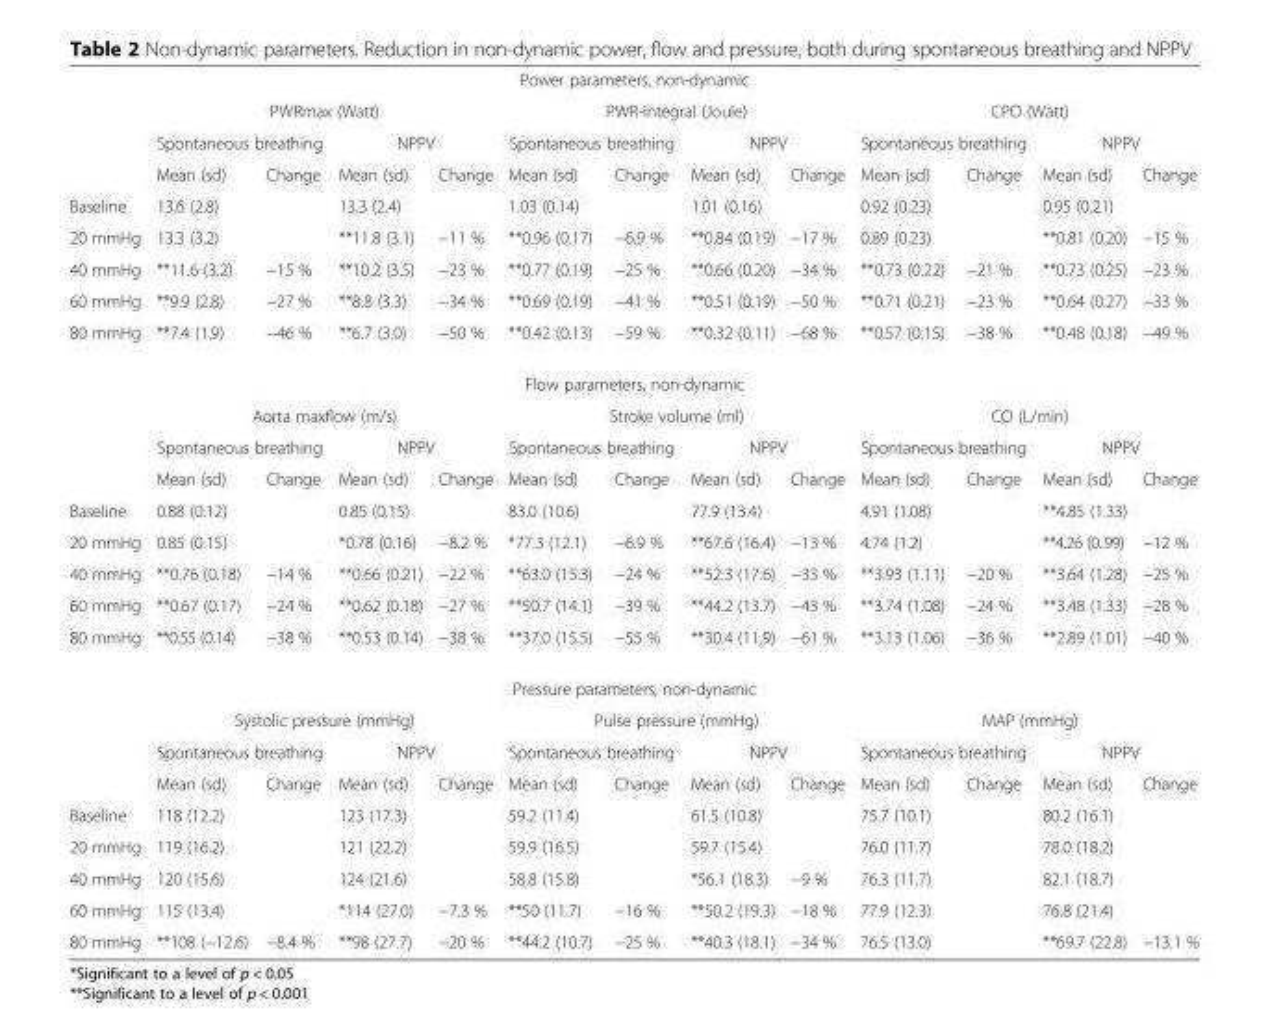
<table><tbody><tr><td colspan="13">Power parameters, non-dynamic</td></tr><tr><td></td><td colspan="4">PWRmax (Watt)</td><td colspan="4">PWR-integral (Joule)</td><td colspan="4">CPO (Watt)</td></tr><tr><td></td><td colspan="2">Spontaneous breathing</td><td colspan="2">NPPV</td><td colspan="2">Spontaneous breathing</td><td colspan="2">NPPV</td><td colspan="2">Spontaneous breathing</td><td colspan="2">NPPV</td></tr><tr><td></td><td>Mean (sd)</td><td>Change</td><td>Mean (sd)</td><td>Change</td><td>Mean (sd)</td><td>Change</td><td>Mean (sd)</td><td>Change</td><td>Mean (sd)</td><td>Change</td><td>Mean (sd)</td><td>Change</td></tr><tr><td>Baseline</td><td>13.6 (2.8)</td><td></td><td>13.3 (2.4)</td><td></td><td>1.03 (0.14)</td><td></td><td>1.01 (0.16)</td><td></td><td>0.92 (0.23)</td><td></td><td>0.95 (0.21)</td><td></td></tr><tr><td>20 mmHg</td><td>13.3 (3.2)</td><td></td><td>**11.8 (3.1)</td><td>−11 %</td><td>**0.96 (0.17)</td><td>−6.9 %</td><td>**0.84 (0.19)</td><td>−17 %</td><td>0.89 (0.23)</td><td></td><td>**0.81 (0.20)</td><td>−15 %</td></tr><tr><td>40 mmHg</td><td>**11.6 (3.2)</td><td>−15 %</td><td>**10.2 (3.5)</td><td>−23 %</td><td>**0.77 (0.19)</td><td>−25 %</td><td>**0.66 (0.20)</td><td>−34 %</td><td>**0.73 (0.22)</td><td>−21 %</td><td>**0.73 (0.25)</td><td>−23 %</td></tr><tr><td>60 mmHg</td><td>**9.9 (2.8)</td><td>−27 %</td><td>**8.8 (3.3)</td><td>−34 %</td><td>**0.69 (0.19)</td><td>−41 %</td><td>**0.51 (0.19)</td><td>−50 %</td><td>**0.71 (0.21)</td><td>−23 %</td><td>**0.64 (0.27)</td><td>−33 %</td></tr><tr><td>80 mmHg</td><td>**7.4 (1.9)</td><td>−46 %</td><td>**6.7 (3.0)</td><td>−50 %</td><td>**0.42 (0.13)</td><td>−59 %</td><td>**0.32 (0.11)</td><td>−68 %</td><td>**0.57 (0.15)</td><td>−38 %</td><td>**0.48 (0.18)</td><td>−49 %</td></tr><tr><td colspan="13">Flow parameters, non-dynamic</td></tr><tr><td></td><td colspan="4">Aorta maxflow (m/s)</td><td colspan="4">Stroke volume (ml)</td><td colspan="4">CO (L/min)</td></tr><tr><td></td><td colspan="2">Spontaneous breathing</td><td colspan="2">NPPV</td><td colspan="2">Spontaneous breathing</td><td colspan="2">NPPV</td><td colspan="2">Spontaneous breathing</td><td colspan="2">NPPV</td></tr><tr><td></td><td>Mean (sd)</td><td>Change</td><td>Mean (sd)</td><td>Change</td><td>Mean (sd)</td><td>Change</td><td>Mean (sd)</td><td>Change</td><td>Mean (sd)</td><td>Change</td><td>Mean (sd)</td><td>Change</td></tr><tr><td>Baseline</td><td>0.88 (0.12)</td><td></td><td>0.85 (0.15)</td><td></td><td>83.0 (10.6)</td><td></td><td>77.9 (13.4)</td><td></td><td>4.91 (1.08)</td><td></td><td>**4.85 (1.33)</td><td></td></tr><tr><td>20 mmHg</td><td>0.85 (0.15)</td><td></td><td>*0.78 (0.16)</td><td>−8.2 %</td><td>*77.3 (12.1)</td><td>−6.9 %</td><td>**67.6 (16.4)</td><td>−13 %</td><td>4.74 (1.2)</td><td></td><td>**4.26 (0..99)</td><td>−12 %</td></tr><tr><td>40 mmHg</td><td>**0.76 (0.18)</td><td>−14 %</td><td>**0.66 (0.21)</td><td>−22 %</td><td>**63.0 (15.3)</td><td>−24 %</td><td>**52.3 (17.6)</td><td>−33 %</td><td>**3.93 (1.11)</td><td>−20 %</td><td>**3.64 (1.28)</td><td>−25 %</td></tr><tr><td>60 mmHg</td><td>**0.67 (0.17)</td><td>−24 %</td><td>**0.62 (0.18)</td><td>−27 %</td><td>**50.7 (14.1)</td><td>−39 %</td><td>**44.2 (13.7)</td><td>−43 %</td><td>**3.74 (1.08)</td><td>−24 %</td><td>**3.48 (1.33)</td><td>−28 %</td></tr><tr><td>80 mmHg</td><td>**0.55 (0.14)</td><td>−38 %</td><td>**0.53 (0.14)</td><td>−38 %</td><td>**37.0 (15.5)</td><td>−55 %</td><td>**30.4 (11.9)</td><td>−61 %</td><td>**3.13 (1.06)</td><td>−36 %</td><td>**2.89 (1.01)</td><td>−40 %</td></tr><tr><td colspan="13">Pressure parameters, non-dynamic</td></tr><tr><td></td><td colspan="4">Systolic pressure (mmHg)</td><td colspan="4">Pulse pressure (mmHg)</td><td colspan="4">MAP (mmHg)</td></tr><tr><td></td><td colspan="2">Spontaneous breathing</td><td colspan="2">NPPV</td><td colspan="2">Spontaneous breathing</td><td colspan="2">NPPV</td><td colspan="2">Spontaneous breathing</td><td colspan="2">NPPV</td></tr><tr><td></td><td>Mean (sd)</td><td>Change</td><td>Mean (sd)</td><td>Change</td><td>Mean (sd)</td><td>Change</td><td>Mean (sd)</td><td>Change</td><td>Mean (sd)</td><td>Change</td><td>Mean (sd)</td><td>Change</td></tr><tr><td>Baseline</td><td>118 (12.2)</td><td></td><td>123 (17.3)</td><td></td><td>59.2 (11.4)</td><td></td><td>61.5 (10.8)</td><td></td><td>75.7 (10.1)</td><td></td><td>80.2 (16.1)</td><td></td></tr><tr><td>20 mmHg</td><td>119 (16.2)</td><td></td><td>121 (22.2)</td><td></td><td>59.9 (16.5)</td><td></td><td>59.7 (15.4)</td><td></td><td>76.0 (11.7)</td><td></td><td>78.0 (18.2)</td><td></td></tr><tr><td>40 mmHg</td><td>120 (15.6)</td><td></td><td>124 (21.6)</td><td></td><td>58.8 (15.8)</td><td></td><td>*56.1 (18.3)</td><td>−9 %</td><td>76.3 (11.7)</td><td></td><td>82.1 (18.7)</td><td></td></tr><tr><td>60 mmHg</td><td>115 (13.4)</td><td></td><td>*114 (27.0)</td><td>−7.3 %</td><td>**50 (11.7)</td><td>−16 %</td><td>**50.2 (19.3)</td><td>−18 %</td><td>77.9 (12.3)</td><td></td><td>76.8 (21.4)</td><td></td></tr><tr><td>80 mmHg</td><td>**108 (−12.6)</td><td>−8.4 %</td><td>**98 (27.7)</td><td>−20 %</td><td>**44.2 (10.7)</td><td>−25 %</td><td>**40.3 (18.1)</td><td>−34 %</td><td>76.5 (13.0)</td><td></td><td>**69.7 (22.8)</td><td>−13.1 %</td></tr></tbody></table>